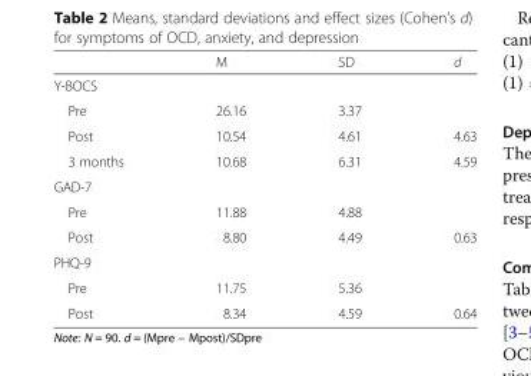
<table><thead><tr><td></td><td>M</td><td>SD</td><td>d</td></tr></thead><tbody><tr><td colspan="4">Y-BOCS</td></tr><tr><td>Pre</td><td>26.16</td><td>3.37</td><td></td></tr><tr><td>Post</td><td>10.54</td><td>4.61</td><td>4.63</td></tr><tr><td>3 months</td><td>10.68</td><td>6.31</td><td>4.59</td></tr><tr><td colspan="4">GAD-7</td></tr><tr><td>Pre</td><td>11.88</td><td>4.88</td><td></td></tr><tr><td>Post</td><td>8.80</td><td>4.49</td><td>0.63</td></tr><tr><td colspan="4">PHQ-9</td></tr><tr><td>Pre</td><td>11.75</td><td>5.36</td><td></td></tr><tr><td>Post</td><td>8.34</td><td>4.59</td><td>0.64</td></tr></tbody></table>